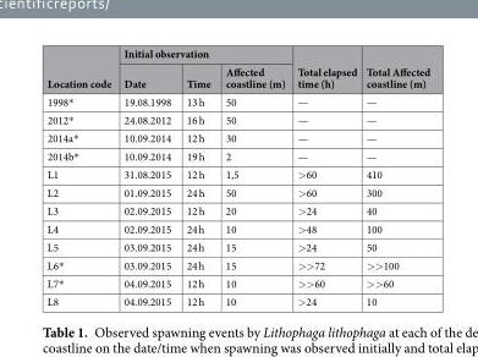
<table><thead><tr><td rowspan="2">Location code</td><td colspan="3">Initial observation</td><td rowspan="2">Total elapsed time (h)</td><td rowspan="2">Total Affected coastline (m)</td></tr><tr><td>Date</td><td>Time</td><td>Affected coastline (m)</td></tr></thead><tbody><tr><td>1998*</td><td>19.08.1998</td><td>13 h</td><td>50</td><td>—</td><td>—</td></tr><tr><td>2012*</td><td>24.08.2012</td><td>16 h</td><td>50</td><td>—</td><td>—</td></tr><tr><td>2014a*</td><td>10.09.2014</td><td>12 h</td><td>30</td><td>—</td><td>—</td></tr><tr><td>2014b*</td><td>10.09.2014</td><td>19 h</td><td>2</td><td>—</td><td>—</td></tr><tr><td>L1</td><td>31.08.2015</td><td>12 h</td><td>1,5</td><td>&gt;60</td><td>410</td></tr><tr><td>L2</td><td>01.09.2015</td><td>24 h</td><td>50</td><td>&gt;60</td><td>300</td></tr><tr><td>L3</td><td>02.09.2015</td><td>12 h</td><td>20</td><td>&gt;24</td><td>40</td></tr><tr><td>L4</td><td>02.09.2015</td><td>24 h</td><td>10</td><td>&gt;48</td><td>100</td></tr><tr><td>L5</td><td>03.09.2015</td><td>24 h</td><td>15</td><td>&gt;24</td><td>50</td></tr><tr><td>L6*</td><td>03.09.2015</td><td>24 h</td><td>15</td><td>&gt;&gt;72</td><td>&gt;&gt;100</td></tr><tr><td>L7*</td><td>04.09.2015</td><td>12 h</td><td>10</td><td>&gt;&gt;60</td><td>&gt;&gt;60</td></tr><tr><td>L8</td><td>04.09.2015</td><td>12 h</td><td>10</td><td>&gt;24</td><td>10</td></tr></tbody></table>